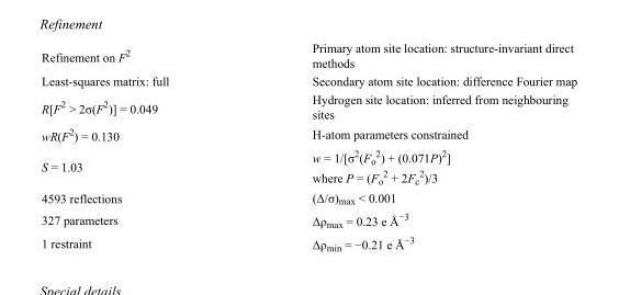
<table><tbody><tr><td>Refinement on F<sup>2</sup></td><td>Primary atom site location: structure-invariant direct methods</td></tr><tr><td>Least-squares matrix: full</td><td>Secondary atom site location: difference Fourier map</td></tr><tr><td>R[F<sup>2</sup> &gt; 2σ(F<sup>2</sup>)] = 0.049</td><td>Hydrogen site location: inferred from neighbouring sites</td></tr><tr><td>wR(F<sup>2</sup>) = 0.130</td><td>H-atom parameters constrained</td></tr><tr><td>S = 1.03</td><td>w = 1/[σ<sup>2</sup>(F<sub>o</sub> <sup>2</sup>) + (0.071P)<sup>2</sup>] where P = (F<sub>o</sub> <sup>2</sup> + 2F<sub>c</sub> <sup>2</sup>)/3</td></tr><tr><td>4593 reflections</td><td>(Δ/σ)<sub>max</sub> &lt; 0.001</td></tr><tr><td>327 parameters</td><td>Δρ<sub>max</sub> = 0.23 e Å<sup>−3</sup></td></tr><tr><td>1 restraint</td><td>Δρ<sub>min</sub> = −0.21 e Å<sup>−3</sup></td></tr></tbody></table>